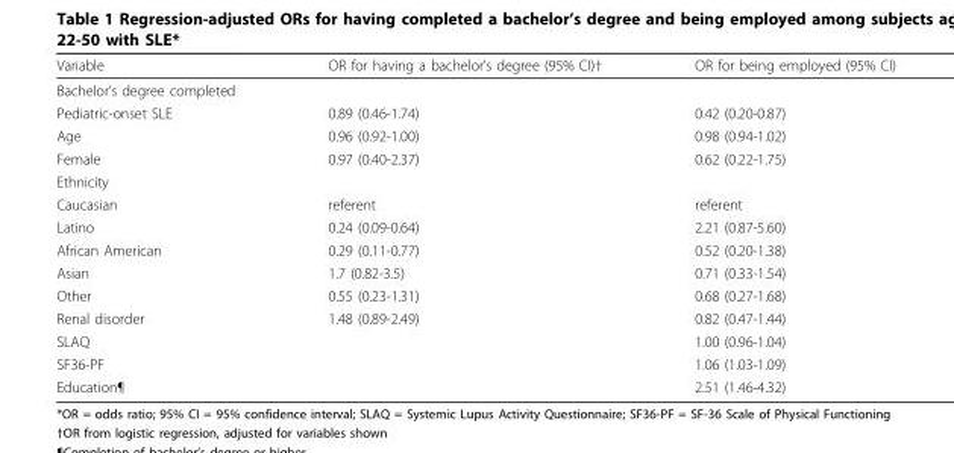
<table><thead><tr><td>Variable</td><td>OR for having a bachelor’s degree (95% CI)†</td><td>OR for being employed (95% CI)</td></tr></thead><tbody><tr><td colspan="3">Bachelor’s degree completed</td></tr><tr><td>Pediatric-onset SLE</td><td>0.89 (0.46-1.74)</td><td>0.42 (0.20-0.87)</td></tr><tr><td>Age</td><td>0.96 (0.92-1.00)</td><td>0.98 (0.94-1.02)</td></tr><tr><td>Female</td><td>0.97 (0.40-2.37)</td><td>0.62 (0.22-1.75)</td></tr><tr><td colspan="3">Ethnicity</td></tr><tr><td>Caucasian</td><td>referent</td><td>referent</td></tr><tr><td>Latino</td><td>0.24 (0.09-0.64)</td><td>2.21 (0.87-5.60)</td></tr><tr><td>African American</td><td>0.29 (0.11-0.77)</td><td>0.52 (0.20-1.38)</td></tr><tr><td>Asian</td><td>1.7 (0.82-3.5)</td><td>0.71 (0.33-1.54)</td></tr><tr><td>Other</td><td>0.55 (0.23-1.31)</td><td>0.68 (0.27-1.68)</td></tr><tr><td>Renal disorder</td><td>1.48 (0.89-2.49)</td><td>0.82 (0.47-1.44)</td></tr><tr><td>SLAQ</td><td></td><td>1.00 (0.96-1.04)</td></tr><tr><td>SF36-PF</td><td></td><td>1.06 (1.03-1.09)</td></tr><tr><td>Education¶</td><td></td><td>2.51 (1.46-4.32)</td></tr></tbody></table>